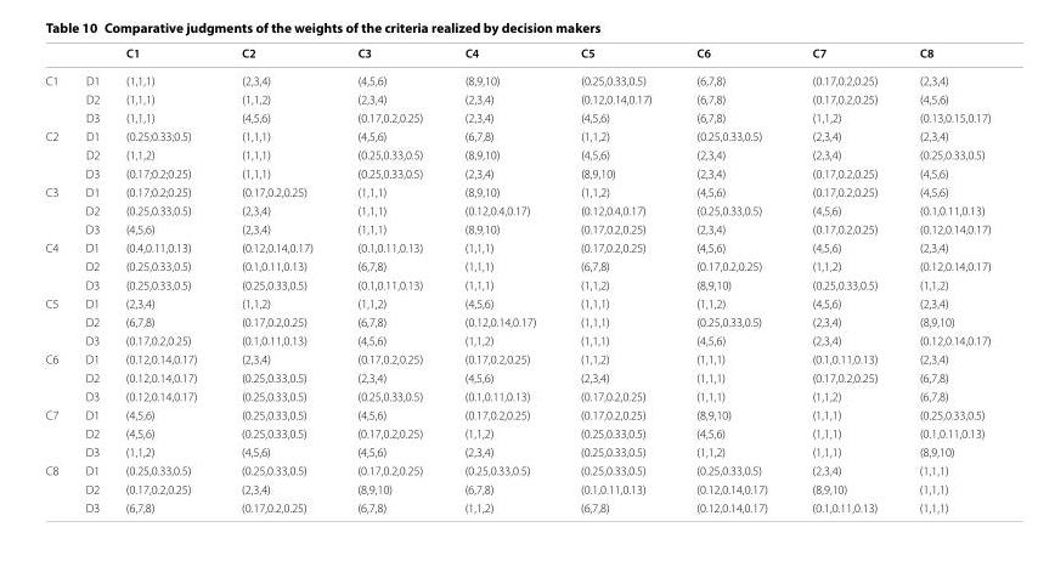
<table><thead><tr><td></td><td></td><td>C1</td><td>C2</td><td>C3</td><td>C4</td><td>C5</td><td>C6</td><td>C7</td><td>C8</td></tr></thead><tbody><tr><td rowspan="3">C1</td><td>D1</td><td>(1,1,1)</td><td>(2,3,4)</td><td>(4,5,6)</td><td>(8,9,10)</td><td>(0.25,0.33,0.5)</td><td>(6,7,8)</td><td>(0.17,0.2,0.25)</td><td>(2,3,4)</td></tr><tr><td>D2</td><td>(1,1,1)</td><td>(1,1,2)</td><td>(2,3,4)</td><td>(2,3,4)</td><td>(0.12,0.14,0.17)</td><td>(6,7,8)</td><td>(0.17,0.2,0.25)</td><td>(4,5,6)</td></tr><tr><td>D3</td><td>(1,1,1)</td><td>(4,5,6)</td><td>(0.17,0.2,0.25)</td><td>(2,3,4)</td><td>(4,5,6)</td><td>(6,7,8)</td><td>(1,1,2)</td><td>(0.13,0.15,0.17)</td></tr><tr><td rowspan="3">C2</td><td>D1</td><td>(0.25;0.33;0.5)</td><td>(1,1,1)</td><td>(4,5,6)</td><td>(6,7,8)</td><td>(1,1,2)</td><td>(0.25,0.33,0.5)</td><td>(2,3,4)</td><td>(2,3,4)</td></tr><tr><td>D2</td><td>(1,1,2)</td><td>(1,1,1)</td><td>(0.25,0.33,0.5)</td><td>(8,9,10)</td><td>(4,5,6)</td><td>(2,3,4)</td><td>(2,3,4)</td><td>(0.25,0.33,0.5)</td></tr><tr><td>D3</td><td>(0.17;0.2;0.25)</td><td>(1,1,1)</td><td>(0.25,0.33,0.5)</td><td>(2,3,4)</td><td>(8,9,10)</td><td>(2,3,4)</td><td>(0.17,0.2,0.25)</td><td>(4,5,6)</td></tr><tr><td rowspan="3">C3</td><td>D1</td><td>(0.17;0.2;0.25)</td><td>(0.17,0.2,0.25)</td><td>(1,1,1)</td><td>(8,9,10)</td><td>(1,1,2)</td><td>(4,5,6)</td><td>(0.17,0.2,0.25)</td><td>(4,5,6)</td></tr><tr><td>D2</td><td>(0.25,0.33,0.5)</td><td>(2,3,4)</td><td>(1,1,1)</td><td>(0.12,0.4,0.17)</td><td>(0.12,0.4,0.17)</td><td>(0.25,0.33,0.5)</td><td>(4,5,6)</td><td>(0.1,0.11,0.13)</td></tr><tr><td>D3</td><td>(4,5,6)</td><td>(2,3,4)</td><td>(1,1,1)</td><td>(8,9,10)</td><td>(0.17,0.2,0.25)</td><td>(2,3,4)</td><td>(0.17,0.2,0.25)</td><td>(0.12,0.14,0.17)</td></tr><tr><td rowspan="3">C4</td><td>D1</td><td>(0.4,0.11,0.13)</td><td>(0.12,0.14,0.17)</td><td>(0.1,0.11,0.13)</td><td>(1,1,1)</td><td>(0.17,0.2,0.25)</td><td>(4,5,6)</td><td>(4,5,6)</td><td>(2,3,4)</td></tr><tr><td>D2</td><td>(0.25,0.33,0.5)</td><td>(0.1,0.11,0.13)</td><td>(6,7,8)</td><td>(1,1,1)</td><td>(6,7,8)</td><td>(0.17,0.2,0.25)</td><td>(1,1,2)</td><td>(0.12,0.14,0.17)</td></tr><tr><td>D3</td><td>(0.25,0.33,0.5)</td><td>(0.25,0.33,0.5)</td><td>(0.1,0.11,0.13)</td><td>(1,1,1)</td><td>(1,1,2)</td><td>(8,9,10)</td><td>(0.25,0.33,0.5)</td><td>(1,1,2)</td></tr><tr><td rowspan="3">C5</td><td>D1</td><td>(2,3,4)</td><td>(1,1,2)</td><td>(1,1,2)</td><td>(4,5,6)</td><td>(1,1,1)</td><td>(1,1,2)</td><td>(4,5,6)</td><td>(2,3,4)</td></tr><tr><td>D2</td><td>(6,7,8)</td><td>(0.17,0.2,0.25)</td><td>(6,7,8)</td><td>(0.12,0.14,0.17)</td><td>(1,1,1)</td><td>(0.25,0.33,0.5)</td><td>(2,3,4)</td><td>(8,9,10)</td></tr><tr><td>D3</td><td>(0.17,0.2,0.25)</td><td>(0.1,0.11,0.13)</td><td>(4,5,6)</td><td>(1,1,2)</td><td>(1,1,1)</td><td>(4,5,6)</td><td>(2,3,4)</td><td>(0.12,0.14,0.17)</td></tr><tr><td rowspan="3">C6</td><td>D1</td><td>(0.12,0.14,0.17)</td><td>(2,3,4)</td><td>(0.17,0.2,0.25)</td><td>(0.17,0.2,0.25)</td><td>(1,1,2)</td><td>(1,1,1)</td><td>(0.1,0.11,0.13)</td><td>(2,3,4)</td></tr><tr><td>D2</td><td>(0.12,0.14,0.17)</td><td>(0.25,0.33,0.5)</td><td>(2,3,4)</td><td>(4,5,6)</td><td>(2,3,4)</td><td>(1,1,1)</td><td>(0.17,0.2,0.25)</td><td>(6,7,8)</td></tr><tr><td>D3</td><td>(0.12,0.14,0.17)</td><td>(0.25,0.33,0.5)</td><td>(0.25,0.33,0.5)</td><td>(0.1,0.11,0.13)</td><td>(0.17,0.2,0.25)</td><td>(1,1,1)</td><td>(1,1,2)</td><td>(6,7,8)</td></tr><tr><td rowspan="3">C7</td><td>D1</td><td>(4,5,6)</td><td>(0.25,0.33,0.5)</td><td>(4,5,6)</td><td>(0.17,0.2,0.25)</td><td>(0.17,0.2,0.25)</td><td>(8,9,10)</td><td>(1,1,1)</td><td>(0.25,0.33,0.5)</td></tr><tr><td>D2</td><td>(4,5,6)</td><td>(0.25,0.33,0.5)</td><td>(0.17,0.2,0.25)</td><td>(1,1,2)</td><td>(0.25,0.33,0.5)</td><td>(4,5,6)</td><td>(1,1,1)</td><td>(0.1,0.11,0.13)</td></tr><tr><td>D3</td><td>(1,1,2)</td><td>(4,5,6)</td><td>(4,5,6)</td><td>(2,3,4)</td><td>(0.25,0.33,0.5)</td><td>(1,1,2)</td><td>(1,1,1)</td><td>(8,9,10)</td></tr><tr><td rowspan="3">C8</td><td>D1</td><td>(0.25,0.33,0.5)</td><td>(0.25,0.33,0.5)</td><td>(0.17,0.2,0.25)</td><td>(0.25,0.33,0.5)</td><td>(0.25,0.33,0.5)</td><td>(0.25,0.33,0.5)</td><td>(2,3,4)</td><td>(1,1,1)</td></tr><tr><td>D2</td><td>(0.17,0.2,0.25)</td><td>(2,3,4)</td><td>(8,9,10)</td><td>(6,7,8)</td><td>(0.1,0.11,0.13)</td><td>(0.12,0.14,0.17)</td><td>(8,9,10)</td><td>(1,1,1)</td></tr><tr><td>D3</td><td>(6,7,8)</td><td>(0.17,0.2,0.25)</td><td>(6,7,8)</td><td>(1,1,2)</td><td>(6,7,8)</td><td>(0.12,0.14,0.17)</td><td>(0.1,0.11,0.13)</td><td>(1,1,1)</td></tr></tbody></table>